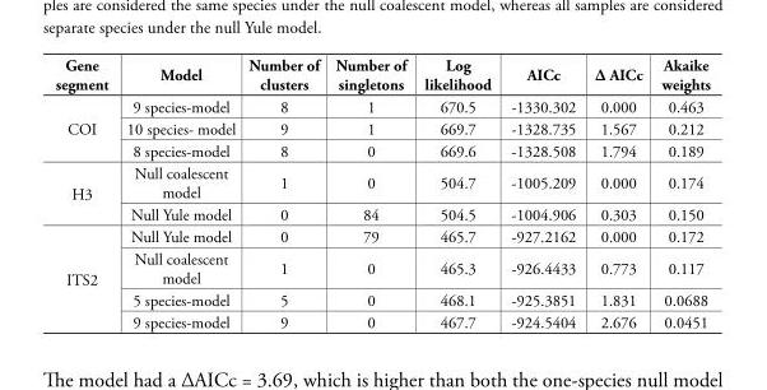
<table><thead><tr><td>Gene segment</td><td>Model</td><td>Number of clusters</td><td>Number of singletons</td><td>Log likelihood</td><td>AICc</td><td>Δ AICc</td><td>Akaike weights</td></tr></thead><tbody><tr><td rowspan="3">COI</td><td>9 species-model</td><td>8</td><td>1</td><td>670.5</td><td>-1330.302</td><td>0.000</td><td>0.463</td></tr><tr><td>10 species- model</td><td>9</td><td>1</td><td>669.7</td><td>-1328.735</td><td>1.567</td><td>0.212</td></tr><tr><td>8 species-model</td><td>8</td><td>0</td><td>669.6</td><td>-1328.508</td><td>1.794</td><td>0.189</td></tr><tr><td rowspan="2">H3</td><td>Null coalescent model</td><td>1</td><td>0</td><td>504.7</td><td>-1005.209</td><td>0.000</td><td>0.174</td></tr><tr><td>Null Yule model</td><td>0</td><td>84</td><td>504.5</td><td>-1004.906</td><td>0.303</td><td>0.150</td></tr><tr><td rowspan="4">ITS2</td><td>Null Yule model</td><td>0</td><td>79</td><td>465.7</td><td>-927.2162</td><td>0.000</td><td>0.172</td></tr><tr><td>Null coalescent model</td><td>1</td><td>0</td><td>465.3</td><td>-926.4433</td><td>0.773</td><td>0.117</td></tr><tr><td>5 species-model</td><td>5</td><td>0</td><td>468.1</td><td>-925.3851</td><td>1.831</td><td>0.0688</td></tr><tr><td>9 species-model</td><td>9</td><td>0</td><td>467.7</td><td>-924.5404</td><td>2.676</td><td>0.0451</td></tr></tbody></table>